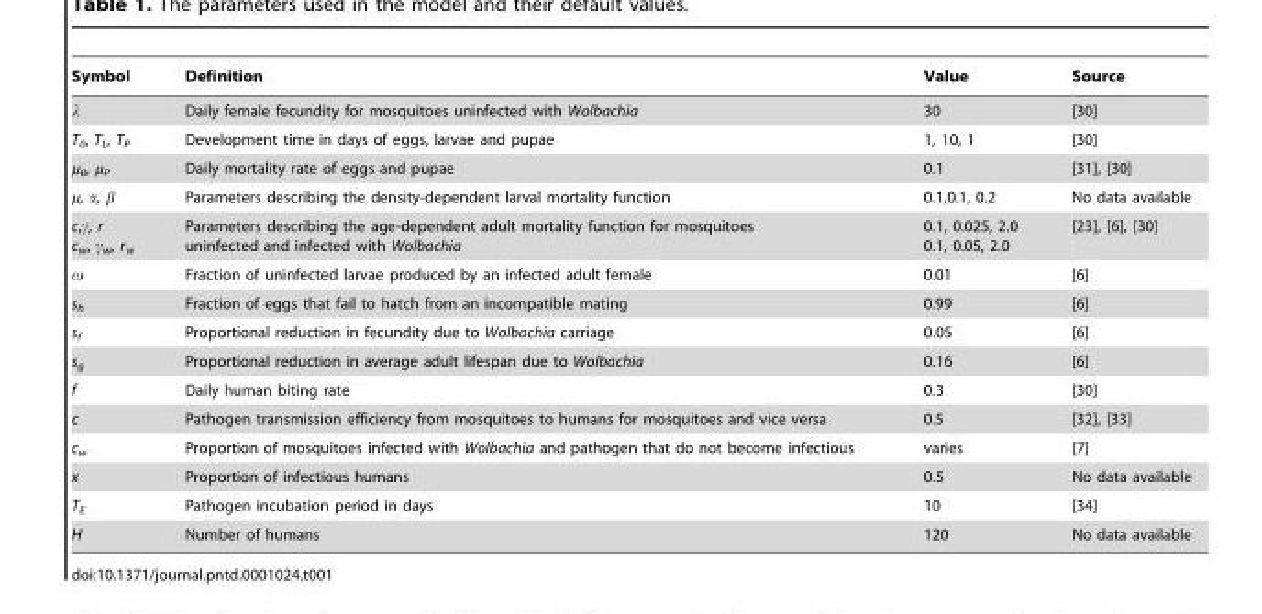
<table><thead><tr><td>Symbol</td><td>Definition</td><td>Value</td><td>Source</td></tr></thead><tbody><tr><td>l</td><td>Daily female fecundity for mosquitoes uninfected with Wolbachia</td><td>30</td><td>[30]</td></tr><tr><td>T<sub>0</sub>, T<sub>L</sub>, T<sub>P</sub></td><td>Development time in days of eggs, larvae and pupae</td><td>1, 10, 1</td><td>[30]</td></tr><tr><td>µ<sub>0</sub>, µ<sub>P</sub></td><td>Daily mortality rate of eggs and pupae</td><td>0.1</td><td>[31], [30]</td></tr><tr><td>µ, α, β</td><td>Parameters describing the density-dependent larval mortality function</td><td>0.1,0.1, 0.2</td><td>No data available</td></tr><tr><td rowspan="2">c,c, r cw, cw, rw v</td><td>Parameters describing the age-dependent adult mortality function for mosquitoes uninfected and infected with Wolbachia</td><td>0.1, 0.025, 2.0 0.1, 0.05, 2.0</td><td>[23], [6], [30]</td></tr><tr><td>Fraction of uninfected larvae produced by an infected adult female</td><td>0.01</td><td>[6]</td></tr><tr><td>s<sub>h</sub></td><td>Fraction of eggs that fail to hatch from an incompatible mating</td><td>0.99</td><td>[6]</td></tr><tr><td>s<sub>f</sub></td><td>Proportional reduction in fecundity due to Wolbachia carriage</td><td>0.05</td><td>[6]</td></tr><tr><td>s<sub>g</sub></td><td>Proportional reduction in average adult lifespan due to Wolbachia</td><td>0.16</td><td>[6]</td></tr><tr><td>f</td><td>Daily human biting rate</td><td>0.3</td><td>[30]</td></tr><tr><td>c</td><td>Pathogen transmission efficiency from mosquitoes to humans for mosquitoes and vice versa</td><td>0.5</td><td>[32], [33]</td></tr><tr><td>c<sub>w</sub></td><td>Proportion of mosquitoes infected with Wolbachia and pathogen that do not become infectious</td><td>varies</td><td>[7]</td></tr><tr><td>x</td><td>Proportion of infectious humans</td><td>0.5</td><td>No data available</td></tr><tr><td>T<sub>E</sub></td><td>Pathogen incubation period in days</td><td>10</td><td>[34]</td></tr><tr><td>H</td><td>Number of humans</td><td>120</td><td>No data available</td></tr></tbody></table>